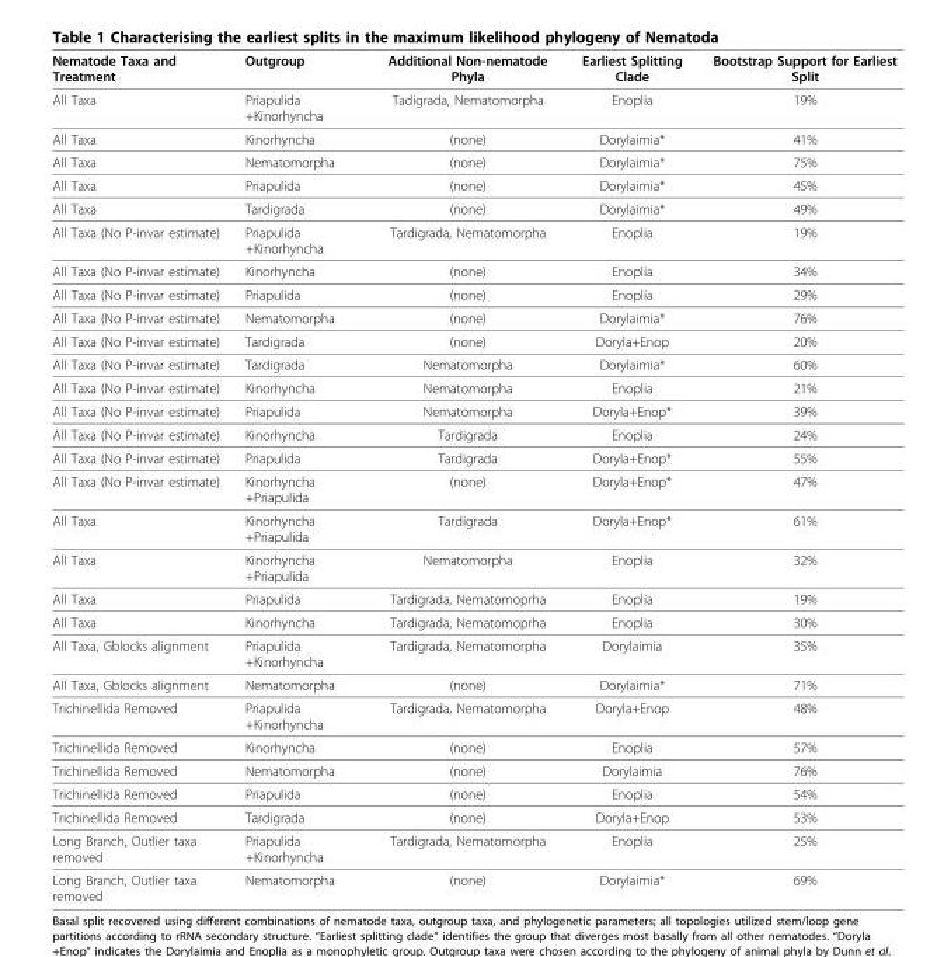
<table><thead><tr><td>Nematode Taxa and Treatment</td><td>Outgroup</td><td>Additional Non-nematode Phyla</td><td>Earliest Splitting Clade</td><td>Bootstrap Support for Earliest Split</td></tr></thead><tbody><tr><td>All Taxa</td><td>Priapulida +Kinorhyncha</td><td>Tadigrada, Nematomorpha</td><td>Enoplia</td><td>19%</td></tr><tr><td>All Taxa</td><td>Kinorhyncha</td><td>(none)</td><td>Dorylaimia*</td><td>41%</td></tr><tr><td>All Taxa</td><td>Nematomorpha</td><td>(none)</td><td>Dorylaimia*</td><td>75%</td></tr><tr><td>All Taxa</td><td>Priapulida</td><td>(none)</td><td>Dorylaimia*</td><td>45%</td></tr><tr><td>All Taxa</td><td>Tardigrada</td><td>(none)</td><td>Dorylaimia*</td><td>49%</td></tr><tr><td>All Taxa (No P-invar estimate)</td><td>Priapulida +Kinorhyncha</td><td>Tardigrada, Nematomorpha</td><td>Enoplia</td><td>19%</td></tr><tr><td>All Taxa (No P-invar estimate)</td><td>Kinorhyncha</td><td>(none)</td><td>Enoplia</td><td>34%</td></tr><tr><td>All Taxa (No P-invar estimate)</td><td>Priapulida</td><td>(none)</td><td>Enoplia</td><td>29%</td></tr><tr><td>All Taxa (No P-invar estimate)</td><td>Nematomorpha</td><td>(none)</td><td>Dorylaimia*</td><td>76%</td></tr><tr><td>All Taxa (No P-invar estimate)</td><td>Tardigrada</td><td>(none)</td><td>Doryla+Enop</td><td>20%</td></tr><tr><td>All Taxa (No P-invar estimate)</td><td>Tardigrada</td><td>Nematomorpha</td><td>Dorylaimia*</td><td>60%</td></tr><tr><td>All Taxa (No P-invar estimate)</td><td>Kinorhyncha</td><td>Nematomorpha</td><td>Enoplia</td><td>21%</td></tr><tr><td>All Taxa (No P-invar estimate)</td><td>Priapulida</td><td>Nematomorpha</td><td>Doryla+Enop*</td><td>39%</td></tr><tr><td>All Taxa (No P-invar estimate)</td><td>Kinorhyncha</td><td>Tardigrada</td><td>Enoplia</td><td>24%</td></tr><tr><td>All Taxa (No P-invar estimate)</td><td>Priapulida</td><td>Tardigrada</td><td>Doryla+Enop*</td><td>55%</td></tr><tr><td>All Taxa (No P-invar estimate)</td><td>Kinorhyncha +Priapulida</td><td>(none)</td><td>Doryla+Enop*</td><td>47%</td></tr><tr><td>All Taxa</td><td>Kinorhyncha +Priapulida</td><td>Tardigrada</td><td>Doryla+Enop*</td><td>61%</td></tr><tr><td>All Taxa</td><td>Kinorhyncha +Priapulida</td><td>Nematomorpha</td><td>Enoplia</td><td>32%</td></tr><tr><td>All Taxa</td><td>Priapulida</td><td>Tardigrada, Nematomoprha</td><td>Enoplia</td><td>19%</td></tr><tr><td>All Taxa</td><td>Kinorhyncha</td><td>Tardigrada, Nematomoprha</td><td>Enoplia</td><td>30%</td></tr><tr><td>All Taxa, Gblocks alignment</td><td>Priapulida +Kinorhyncha</td><td>Tardigrada, Nematomorpha</td><td>Dorylaimia</td><td>35%</td></tr><tr><td>All Taxa, Gblocks alignment</td><td>Nematomorpha</td><td>(none)</td><td>Dorylaimia*</td><td>71%</td></tr><tr><td>Trichinellida Removed</td><td>Priapulida +Kinorhyncha</td><td>Tardigrada, Nematomorpha</td><td>Doryla+Enop</td><td>48%</td></tr><tr><td>Trichinellida Removed</td><td>Kinorhyncha</td><td>(none)</td><td>Enoplia</td><td>57%</td></tr><tr><td>Trichinellida Removed</td><td>Nematomorpha</td><td>(none)</td><td>Dorylaimia</td><td>76%</td></tr><tr><td>Trichinellida Removed</td><td>Priapulida</td><td>(none)</td><td>Enoplia</td><td>54%</td></tr><tr><td>Trichinellida Removed</td><td>Tardigrada</td><td>(none)</td><td>Doryla+Enop</td><td>53%</td></tr><tr><td>Long Branch, Outlier taxa removed</td><td>Priapulida +Kinorhyncha</td><td>Tardigrada, Nematomorpha</td><td>Enoplia</td><td>25%</td></tr><tr><td>Long Branch, Outlier taxa removed</td><td>Nematomorpha</td><td>(none)</td><td>Dorylaimia*</td><td>69%</td></tr></tbody></table>